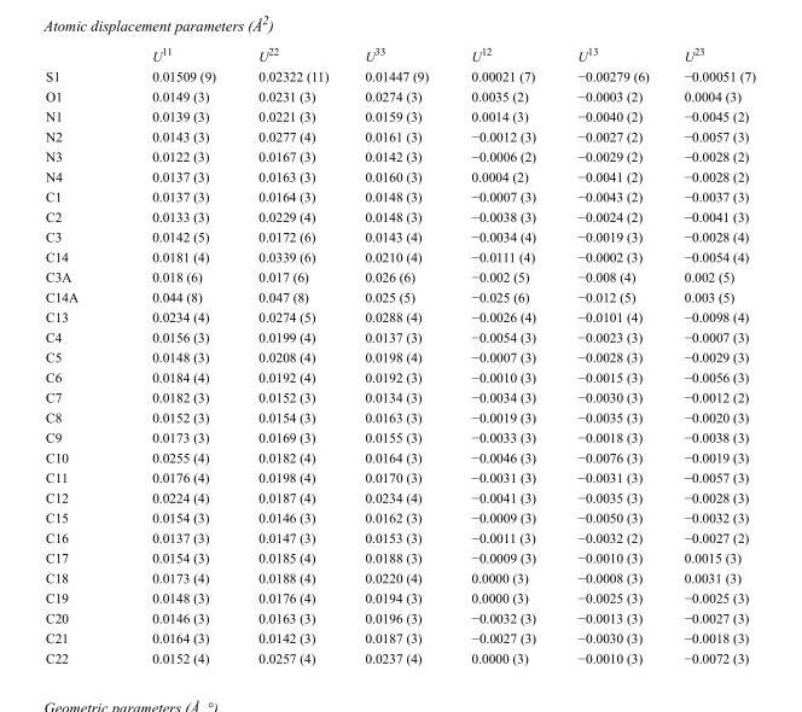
<table><thead><tr><td></td><td>U<sup>11</sup></td><td>U<sup>22</sup></td><td>U<sup>33</sup></td><td>U<sup>12</sup></td><td>U<sup>13</sup></td><td>U<sup>23</sup></td></tr></thead><tbody><tr><td>S1</td><td>0.01509 (9)</td><td>0.02322 (11)</td><td>0.01447 (9)</td><td>0.00021 (7)</td><td>−0.00279 (6)</td><td>−0.00051 (7)</td></tr><tr><td>O1</td><td>0.0149 (3)</td><td>0.0231 (3)</td><td>0.0274 (3)</td><td>0.0035 (2)</td><td>−0.0003 (2)</td><td>0.0004 (3)</td></tr><tr><td>N1</td><td>0.0139 (3)</td><td>0.0221 (3)</td><td>0.0159 (3)</td><td>0.0014 (3)</td><td>−0.0040 (2)</td><td>−0.0045 (2)</td></tr><tr><td>N2</td><td>0.0143 (3)</td><td>0.0277 (4)</td><td>0.0161 (3)</td><td>−0.0012 (3)</td><td>−0.0027 (2)</td><td>−0.0057 (3)</td></tr><tr><td>N3</td><td>0.0122 (3)</td><td>0.0167 (3)</td><td>0.0142 (3)</td><td>−0.0006 (2)</td><td>−0.0029 (2)</td><td>−0.0028 (2)</td></tr><tr><td>N4</td><td>0.0137 (3)</td><td>0.0163 (3)</td><td>0.0160 (3)</td><td>0.0004 (2)</td><td>−0.0041 (2)</td><td>−0.0028 (2)</td></tr><tr><td>C1</td><td>0.0137 (3)</td><td>0.0164 (3)</td><td>0.0148 (3)</td><td>−0.0007 (3)</td><td>−0.0043 (2)</td><td>−0.0037 (3)</td></tr><tr><td>C2</td><td>0.0133 (3)</td><td>0.0229 (4)</td><td>0.0148 (3)</td><td>−0.0038 (3)</td><td>−0.0024 (2)</td><td>−0.0041 (3)</td></tr><tr><td>C3</td><td>0.0142 (5)</td><td>0.0172 (6)</td><td>0.0143 (4)</td><td>−0.0034 (4)</td><td>−0.0019 (3)</td><td>−0.0028 (4)</td></tr><tr><td>C14</td><td>0.0181 (4)</td><td>0.0339 (6)</td><td>0.0210 (4)</td><td>−0.0111 (4)</td><td>−0.0002 (3)</td><td>−0.0054 (4)</td></tr><tr><td>C3A</td><td>0.018 (6)</td><td>0.017 (6)</td><td>0.026 (6)</td><td>−0.002 (5)</td><td>−0.008 (4)</td><td>0.002 (5)</td></tr><tr><td>C14A</td><td>0.044 (8)</td><td>0.047 (8)</td><td>0.025 (5)</td><td>−0.025 (6)</td><td>−0.012 (5)</td><td>0.003 (5)</td></tr><tr><td>C13</td><td>0.0234 (4)</td><td>0.0274 (5)</td><td>0.0288 (4)</td><td>−0.0026 (4)</td><td>−0.0101 (4)</td><td>−0.0098 (4)</td></tr><tr><td>C4</td><td>0.0156 (3)</td><td>0.0199 (4)</td><td>0.0137 (3)</td><td>−0.0054 (3)</td><td>−0.0023 (3)</td><td>−0.0007 (3)</td></tr><tr><td>C5</td><td>0.0148 (3)</td><td>0.0208 (4)</td><td>0.0198 (4)</td><td>−0.0007 (3)</td><td>−0.0028 (3)</td><td>−0.0029 (3)</td></tr><tr><td>C6</td><td>0.0184 (4)</td><td>0.0192 (4)</td><td>0.0192 (3)</td><td>−0.0010 (3)</td><td>−0.0015 (3)</td><td>−0.0056 (3)</td></tr><tr><td>C7</td><td>0.0182 (3)</td><td>0.0152 (3)</td><td>0.0134 (3)</td><td>−0.0034 (3)</td><td>−0.0030 (3)</td><td>−0.0012 (2)</td></tr><tr><td>C8</td><td>0.0152 (3)</td><td>0.0154 (3)</td><td>0.0163 (3)</td><td>−0.0019 (3)</td><td>−0.0035 (3)</td><td>−0.0020 (3)</td></tr><tr><td>C9</td><td>0.0173 (3)</td><td>0.0169 (3)</td><td>0.0155 (3)</td><td>−0.0033 (3)</td><td>−0.0018 (3)</td><td>−0.0038 (3)</td></tr><tr><td>C10</td><td>0.0255 (4)</td><td>0.0182 (4)</td><td>0.0164 (3)</td><td>−0.0046 (3)</td><td>−0.0076 (3)</td><td>−0.0019 (3)</td></tr><tr><td>C11</td><td>0.0176 (4)</td><td>0.0198 (4)</td><td>0.0170 (3)</td><td>−0.0031 (3)</td><td>−0.0031 (3)</td><td>−0.0057 (3)</td></tr><tr><td>C12</td><td>0.0224 (4)</td><td>0.0187 (4)</td><td>0.0234 (4)</td><td>−0.0041 (3)</td><td>−0.0035 (3)</td><td>−0.0028 (3)</td></tr><tr><td>C15</td><td>0.0154 (3)</td><td>0.0146 (3)</td><td>0.0162 (3)</td><td>−0.0009 (3)</td><td>−0.0050 (3)</td><td>−0.0032 (3)</td></tr><tr><td>C16</td><td>0.0137 (3)</td><td>0.0147 (3)</td><td>0.0153 (3)</td><td>−0.0011 (3)</td><td>−0.0032 (2)</td><td>−0.0027 (2)</td></tr><tr><td>C17</td><td>0.0154 (3)</td><td>0.0185 (4)</td><td>0.0188 (3)</td><td>−0.0009 (3)</td><td>−0.0010 (3)</td><td>0.0015 (3)</td></tr><tr><td>C18</td><td>0.0173 (4)</td><td>0.0188 (4)</td><td>0.0220 (4)</td><td>0.0000 (3)</td><td>−0.0008 (3)</td><td>0.0031 (3)</td></tr><tr><td>C19</td><td>0.0148 (3)</td><td>0.0176 (4)</td><td>0.0194 (3)</td><td>0.0000 (3)</td><td>−0.0025 (3)</td><td>−0.0025 (3)</td></tr><tr><td>C20</td><td>0.0146 (3)</td><td>0.0163 (3)</td><td>0.0196 (3)</td><td>−0.0032 (3)</td><td>−0.0013 (3)</td><td>−0.0027 (3)</td></tr><tr><td>C21</td><td>0.0164 (3)</td><td>0.0142 (3)</td><td>0.0187 (3)</td><td>−0.0027 (3)</td><td>−0.0030 (3)</td><td>−0.0018 (3)</td></tr><tr><td>C22</td><td>0.0152 (4)</td><td>0.0257 (4)</td><td>0.0237 (4)</td><td>0.0000 (3)</td><td>−0.0010 (3)</td><td>−0.0072 (3)</td></tr></tbody></table>